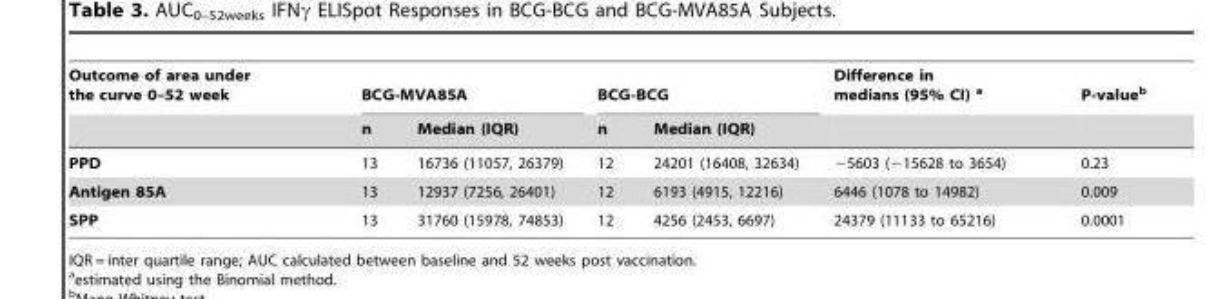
<table><thead><tr><td rowspan="2">Outcome of area under the curve 0–52 week</td><td colspan="2">BCG-MVA85A</td><td colspan="2">BCG-BCG</td><td rowspan="2">Difference in medians (95% CI) a</td><td rowspan="2">P-value<sup>b</sup></td></tr><tr><td>n</td><td>Median (IQR)</td><td>n</td><td>Median (IQR)</td></tr></thead><tbody><tr><td>PPD</td><td>13</td><td>16736 (11057, 26379)</td><td>12</td><td>24201 (16408, 32634)</td><td>−5603 (−15628 to 3654)</td><td>0.23</td></tr><tr><td>Antigen 85A</td><td>13</td><td>12937 (7256, 26401)</td><td>12</td><td>6193 (4915, 12216)</td><td>6446 (1078 to 14982)</td><td>0.009</td></tr><tr><td>SPP</td><td>13</td><td>31760 (15978, 74853)</td><td>12</td><td>4256 (2453, 6697)</td><td>24379 (11133 to 65216)</td><td>0.0001</td></tr></tbody></table>